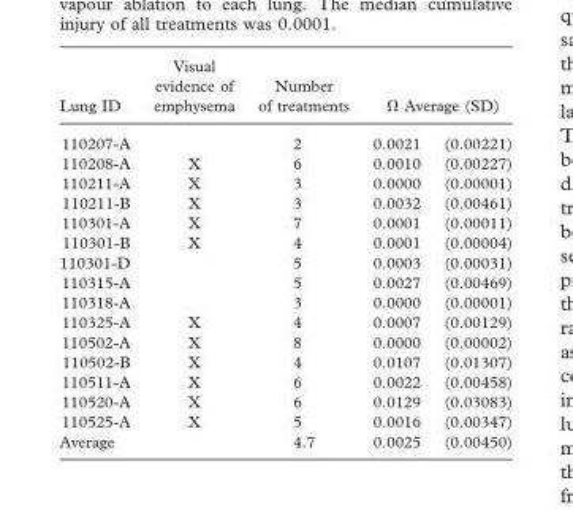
<table><thead><tr><td rowspan="2">Lung ID 110207-A</td><td rowspan="2">Visual evidence of emphysema</td><td rowspan="2">Number of treatments 2</td><td colspan="2">Ω Average (SD)</td></tr><tr><td>0.0021</td><td>(0.00221)</td></tr></thead><tbody><tr><td>110208-A</td><td>X</td><td>6</td><td>0.0010</td><td>(0.00227)</td></tr><tr><td>110211-A</td><td>X</td><td>3</td><td>0.0000</td><td>(0.00001)</td></tr><tr><td>110211-B</td><td>X</td><td>3</td><td>0.0032</td><td>(0.00461)</td></tr><tr><td>110301-A</td><td>X</td><td>7</td><td>0.0001</td><td>(0.00011)</td></tr><tr><td>110301-B</td><td>X</td><td>4</td><td>0.0001</td><td>(0.00004)</td></tr><tr><td>110301-D</td><td></td><td>5</td><td>0.0003</td><td>(0.00031)</td></tr><tr><td>110315-A</td><td></td><td>5</td><td>0.0027</td><td>(0.00469)</td></tr><tr><td>110318-A</td><td></td><td>3</td><td>0.0000</td><td>(0.00001)</td></tr><tr><td>110325-A</td><td>X</td><td>4</td><td>0.0007</td><td>(0.00129)</td></tr><tr><td>110502-A</td><td>X</td><td>8</td><td>0.0000</td><td>(0.00002)</td></tr><tr><td>110502-B</td><td>X</td><td>4</td><td>0.0107</td><td>(0.01307)</td></tr><tr><td>110511-A</td><td>X</td><td>6</td><td>0.0022</td><td>(0.00458)</td></tr><tr><td>110520-A</td><td>X</td><td>6</td><td>0.0129</td><td>(0.03083)</td></tr><tr><td>110525-A</td><td>X</td><td>5</td><td>0.0016</td><td>(0.00347)</td></tr><tr><td>Average</td><td></td><td>4.7</td><td>0.0025</td><td>(0.00450)</td></tr></tbody></table>